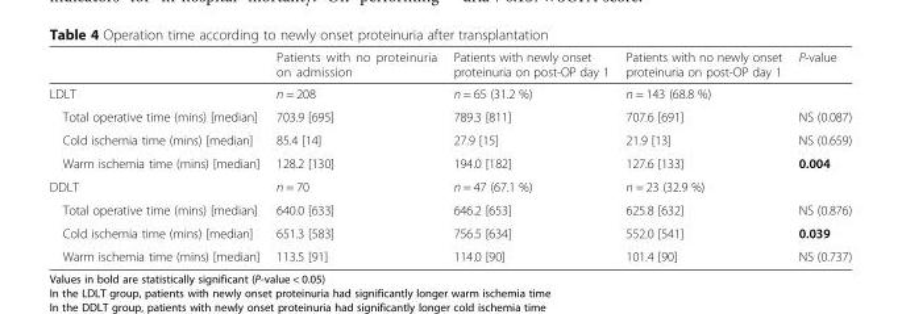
<table><thead><tr><td></td><td>Patients with no proteinuria on admission</td><td>Patients with newly onset proteinuria on post-OP day 1</td><td>Patients with no newly onset proteinuria on post-OP day 1</td><td>P-value</td></tr></thead><tbody><tr><td>LDLT</td><td>n = 208</td><td>n = 65 (31.2 %)</td><td>n = 143 (68.8 %)</td><td></td></tr><tr><td>Total operative time (mins) [median]</td><td>703.9 [695]</td><td>789.3 [811]</td><td>707.6 [691]</td><td>NS (0.087)</td></tr><tr><td>Cold ischemia time (mins) [median]</td><td>85.4 [14]</td><td>27.9 [15]</td><td>21.9 [13]</td><td>NS (0.659)</td></tr><tr><td>Warm ischemia time (mins) [median]</td><td>128.2 [130]</td><td>194.0 [182]</td><td>127.6 [133]</td><td>0.004</td></tr><tr><td>DDLT</td><td>n = 70</td><td>n = 47 (67.1 %)</td><td>n = 23 (32.9 %)</td><td></td></tr><tr><td>Total operative time (mins) [median]</td><td>640.0 [633]</td><td>646.2 [653]</td><td>625.8 [632]</td><td>NS (0.876)</td></tr><tr><td>Cold ischemia time (mins) [median]</td><td>651.3 [583]</td><td>756.5 [634]</td><td>552.0 [541]</td><td>0.039</td></tr><tr><td>Warm ischemia time (mins) [median]</td><td>113.5 [91]</td><td>114.0 [90]</td><td>101.4 [90]</td><td>NS (0.737)</td></tr></tbody></table>